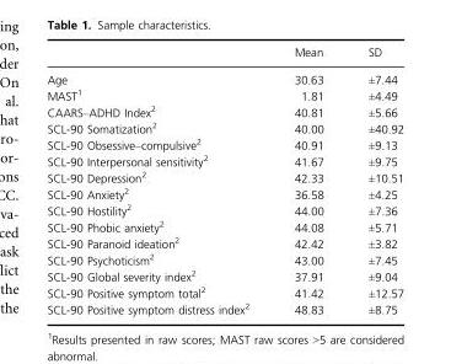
<table><thead><tr><td></td><td>Mean</td><td>SD</td></tr></thead><tbody><tr><td>Age</td><td>30.63</td><td>±7.44</td></tr><tr><td>MAST<sup>1</sup></td><td>1.81</td><td>±4.49</td></tr><tr><td>CAARS–ADHD Index<sup>2</sup></td><td>40.81</td><td>±5.66</td></tr><tr><td>SCL-90 Somatization<sup>2</sup></td><td>40.00</td><td>±40.92</td></tr><tr><td>SCL-90 Obsessive–compulsive<sup>2</sup></td><td>40.91</td><td>±9.13</td></tr><tr><td>SCL-90 Interpersonal sensitivity<sup>2</sup></td><td>41.67</td><td>±9.75</td></tr><tr><td>SCL-90 Depression<sup>2</sup></td><td>42.33</td><td>±10.51</td></tr><tr><td>SCL-90 Anxiety<sup>2</sup></td><td>36.58</td><td>±4.25</td></tr><tr><td>SCL-90 Hostility<sup>2</sup></td><td>44.00</td><td>±7.36</td></tr><tr><td>SCL-90 Phobic anxiety<sup>2</sup></td><td>44.08</td><td>±5.71</td></tr><tr><td>SCL-90 Paranoid ideation<sup>2</sup></td><td>42.42</td><td>±3.82</td></tr><tr><td>SCL-90 Psychoticism<sup>2</sup></td><td>43.00</td><td>±7.45</td></tr><tr><td>SCL-90 Global severity index<sup>2</sup></td><td>37.91</td><td>±9.04</td></tr><tr><td>SCL-90 Positive symptom total<sup>2</sup></td><td>41.42</td><td>±12.57</td></tr><tr><td>SCL-90 Positive symptom distress index<sup>2</sup></td><td>48.83</td><td>±8.75</td></tr></tbody></table>